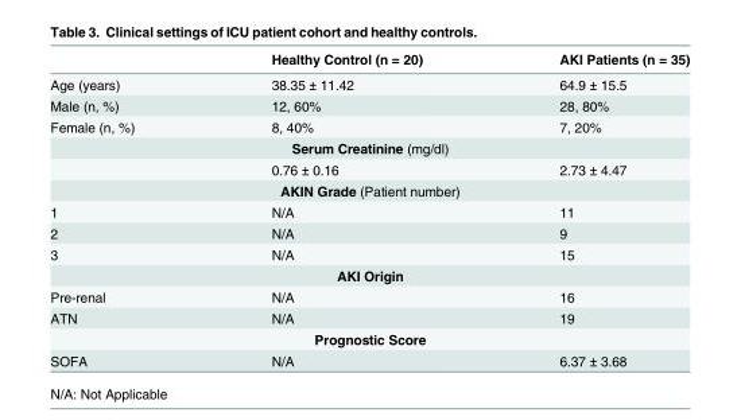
<table><thead><tr><td></td><td>Healthy Control (n = 20)</td><td>AKI Patients (n = 35)</td></tr></thead><tbody><tr><td>Age (years)</td><td>38.35 ± 11.42</td><td>64.9 ± 15.5</td></tr><tr><td>Male (n, %)</td><td>12, 60%</td><td>28, 80%</td></tr><tr><td>Female (n, %)</td><td>8, 40%</td><td>7, 20%</td></tr><tr><td colspan="3">Serum Creatinine (mg/dl)</td></tr><tr><td></td><td>0.76 ± 0.16</td><td>2.73 ± 4.47</td></tr><tr><td colspan="3">AKIN Grade (Patient number)</td></tr><tr><td>1</td><td>N/A</td><td>11</td></tr><tr><td>2</td><td>N/A</td><td>9</td></tr><tr><td>3</td><td>N/A</td><td>15</td></tr><tr><td colspan="3">AKI Origin</td></tr><tr><td>Pre-renal</td><td>N/A</td><td>16</td></tr><tr><td>ATN</td><td>N/A</td><td>19</td></tr><tr><td colspan="3">Prognostic Score</td></tr><tr><td>SOFA</td><td>N/A</td><td>6.37 ± 3.68</td></tr></tbody></table>